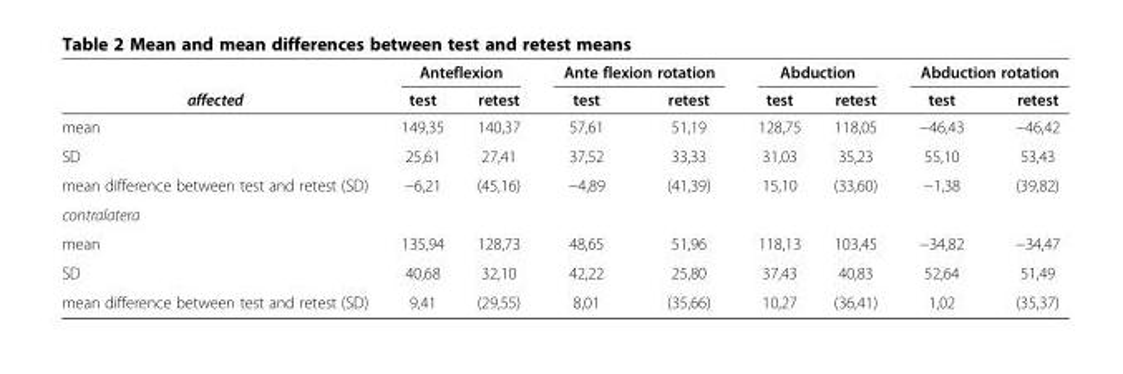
<table><thead><tr><td rowspan="2">affected</td><td colspan="2">Anteflexion</td><td colspan="2">Ante flexion rotation</td><td colspan="2">Abduction</td><td colspan="2">Abduction rotation</td></tr><tr><td>test</td><td>retest</td><td>test</td><td>retest</td><td>test</td><td>retest</td><td>test</td><td>retest</td></tr></thead><tbody><tr><td>mean</td><td>149,35</td><td>140,37</td><td>57,61</td><td>51,19</td><td>128,75</td><td>118,05</td><td>−46,43</td><td>−46,42</td></tr><tr><td>SD</td><td>25,61</td><td>27,41</td><td>37,52</td><td>33,33</td><td>31,03</td><td>35,23</td><td>55,10</td><td>53,43</td></tr><tr><td>mean difference between test and retest (SD)</td><td>−6,21</td><td>(45,16)</td><td>−4,89</td><td>(41,39)</td><td>15,10</td><td>(33,60)</td><td>−1,38</td><td>(39,82)</td></tr><tr><td colspan="9">contralatera</td></tr><tr><td>mean</td><td>135,94</td><td>128,73</td><td>48,65</td><td>51,96</td><td>118,13</td><td>103,45</td><td>−34,82</td><td>−34,47</td></tr><tr><td>SD</td><td>40,68</td><td>32,10</td><td>42,22</td><td>25,80</td><td>37,43</td><td>40,83</td><td>52,64</td><td>51,49</td></tr><tr><td>mean difference between test and retest (SD)</td><td>9,41</td><td>(29,55)</td><td>8,01</td><td>(35,66)</td><td>10,27</td><td>(36,41)</td><td>1,02</td><td>(35,37)</td></tr></tbody></table>